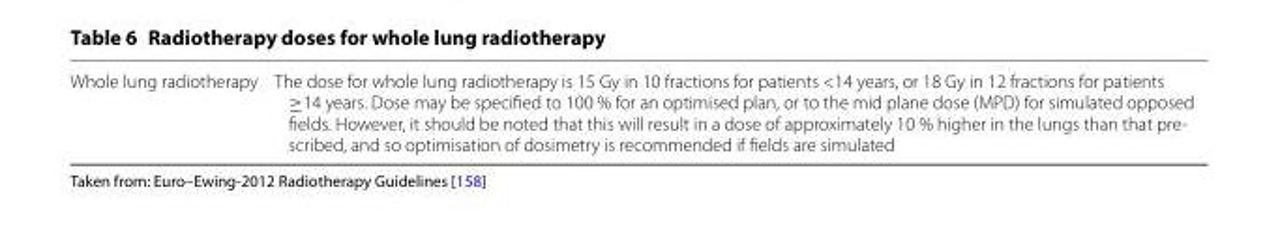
<table><tbody><tr><td>Whole lung radiotherapy</td><td>The dose for whole lung radiotherapy is 15 Gy in 10 fractions for patients &lt;14 years, or 18 Gy in 12 fractions for patients ≥14 years. Dose may be specified to 100 % for an optimised plan, or to the mid plane dose (MPD) for simulated opposed fields. However, it should be noted that this will result in a dose of approximately 10 % higher in the lungs than that pre- scribed, and so optimisation of dosimetry is recommended if fields are simulated</td></tr></tbody></table>